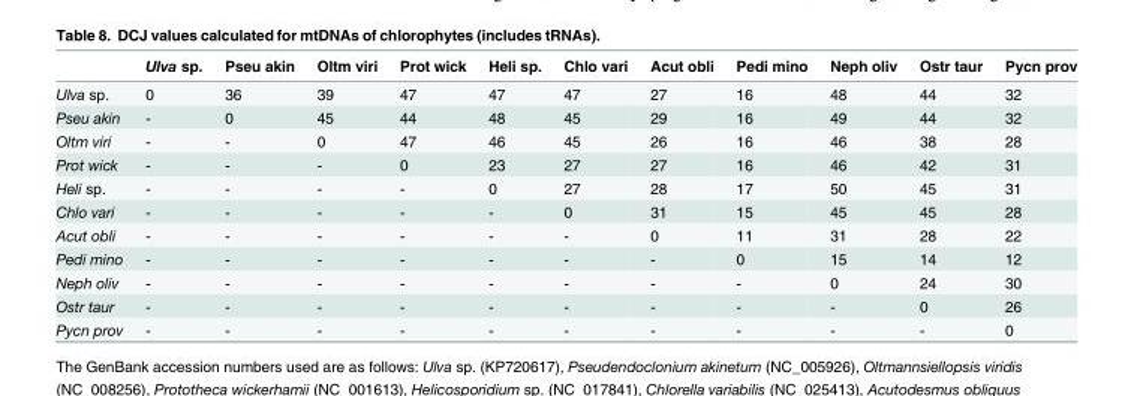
<table><thead><tr><td></td><td>Ulva sp.</td><td>Pseu akin</td><td>Oltm viri</td><td>Prot wick</td><td>Heli sp.</td><td>Chlo vari</td><td>Acut obli</td><td>Pedi mino</td><td>Neph oliv</td><td>Ostr taur</td><td>Pycn prov</td></tr></thead><tbody><tr><td>Ulva sp.</td><td>0</td><td>36</td><td>39</td><td>47</td><td>47</td><td>47</td><td>27</td><td>16</td><td>48</td><td>44</td><td>32</td></tr><tr><td>Pseu akin</td><td>-</td><td>0</td><td>45</td><td>44</td><td>48</td><td>45</td><td>29</td><td>16</td><td>49</td><td>44</td><td>32</td></tr><tr><td>Oltm viri</td><td>-</td><td>-</td><td>0</td><td>47</td><td>46</td><td>45</td><td>26</td><td>16</td><td>46</td><td>38</td><td>28</td></tr><tr><td>Prot wick</td><td>-</td><td>-</td><td>-</td><td>0</td><td>23</td><td>27</td><td>27</td><td>16</td><td>46</td><td>42</td><td>31</td></tr><tr><td>Heli sp.</td><td>-</td><td>-</td><td>-</td><td>-</td><td>0</td><td>27</td><td>28</td><td>17</td><td>50</td><td>45</td><td>31</td></tr><tr><td>Chlo vari</td><td>-</td><td>-</td><td>-</td><td>-</td><td>-</td><td>0</td><td>31</td><td>15</td><td>45</td><td>45</td><td>28</td></tr><tr><td>Acut obli</td><td>-</td><td>-</td><td>-</td><td>-</td><td>-</td><td>-</td><td>0</td><td>11</td><td>31</td><td>28</td><td>22</td></tr><tr><td>Pedi mino</td><td>-</td><td>-</td><td>-</td><td>-</td><td>-</td><td>-</td><td>-</td><td>0</td><td>15</td><td>14</td><td>12</td></tr><tr><td>Neph oliv</td><td>-</td><td>-</td><td>-</td><td>-</td><td>-</td><td>-</td><td>-</td><td>-</td><td>0</td><td>24</td><td>30</td></tr><tr><td>Ostr taur</td><td>-</td><td>-</td><td>-</td><td>-</td><td>-</td><td>-</td><td>-</td><td>-</td><td>-</td><td>0</td><td>26</td></tr><tr><td>Pycn prov</td><td>-</td><td>-</td><td>-</td><td>-</td><td>-</td><td>-</td><td>-</td><td>-</td><td>-</td><td>-</td><td>0</td></tr></tbody></table>